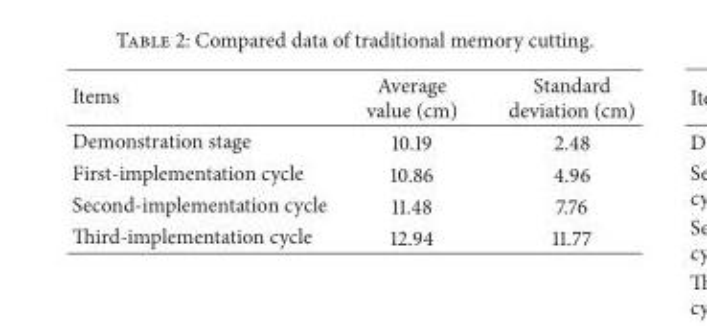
<table><thead><tr><td>Items</td><td>Average value (cm)</td><td>Standard deviation (cm)</td></tr></thead><tbody><tr><td>Demonstration stage</td><td>10.19</td><td>2.48</td></tr><tr><td>First-implementation cycle</td><td>10.86</td><td>4.96</td></tr><tr><td>Second-implementation cycle</td><td>11.48</td><td>7.76</td></tr><tr><td>Third-implementation cycle</td><td>12.94</td><td>11.77</td></tr></tbody></table>